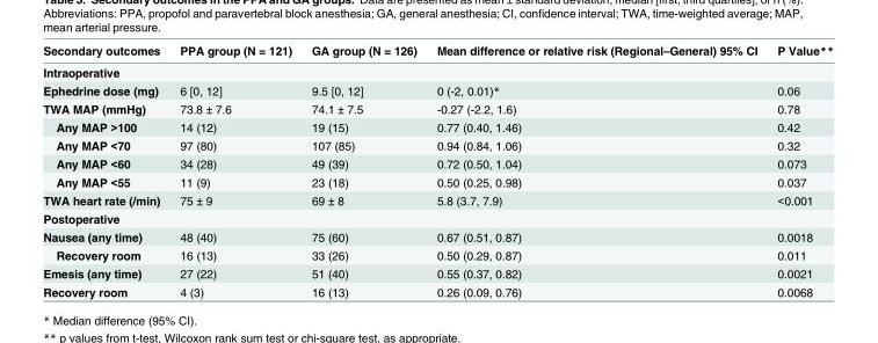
<table><thead><tr><td>Secondary outcomes</td><td>PPA group (N = 121)</td><td>GA group (N = 126)</td><td>Mean difference or relative risk (Regional–General) 95% CI</td><td>P Value**</td></tr></thead><tbody><tr><td colspan="5">Intraoperative</td></tr><tr><td>Ephedrine dose (mg)</td><td>6 [0, 12]</td><td>9.5 [0, 12]</td><td>0 (-2, 0.01)*</td><td>0.06</td></tr><tr><td>TWA MAP (mmHg)</td><td>73.8 ± 7.6</td><td>74.1 ± 7.5</td><td>-0.27 (-2.2, 1.6)</td><td>0.78</td></tr><tr><td>Any MAP &gt;100</td><td>14 (12)</td><td>19 (15)</td><td>0.77 (0.40, 1.46)</td><td>0.42</td></tr><tr><td>Any MAP &lt;70</td><td>97 (80)</td><td>107 (85)</td><td>0.94 (0.84, 1.06)</td><td>0.32</td></tr><tr><td>Any MAP &lt;60</td><td>34 (28)</td><td>49 (39)</td><td>0.72 (0.50, 1.04)</td><td>0.073</td></tr><tr><td>Any MAP &lt;55</td><td>11 (9)</td><td>23 (18)</td><td>0.50 (0.25, 0.98)</td><td>0.037</td></tr><tr><td>TWA heart rate (/min)</td><td>75 ± 9</td><td>69 ± 8</td><td>5.8 (3.7, 7.9)</td><td>&lt;0.001</td></tr><tr><td colspan="5">Postoperative</td></tr><tr><td>Nausea (any time)</td><td>48 (40)</td><td>75 (60)</td><td>0.67 (0.51, 0.87)</td><td>0.0018</td></tr><tr><td>Recovery room</td><td>16 (13)</td><td>33 (26)</td><td>0.50 (0.29, 0.87)</td><td>0.011</td></tr><tr><td>Emesis (any time)</td><td>27 (22)</td><td>51 (40)</td><td>0.55 (0.37, 0.82)</td><td>0.0021</td></tr><tr><td>Recovery room</td><td>4 (3)</td><td>16 (13)</td><td>0.26 (0.09, 0.76)</td><td>0.0068</td></tr></tbody></table>